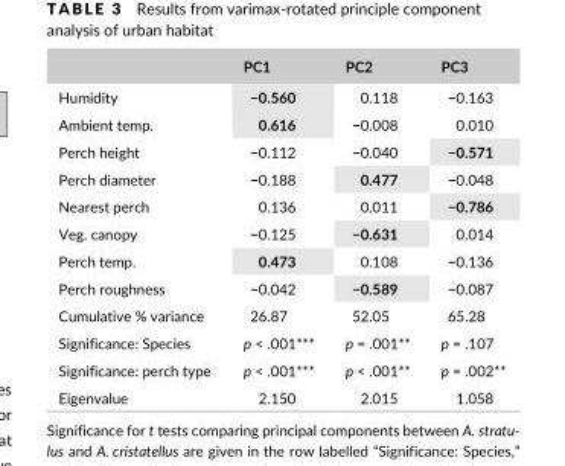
<table><thead><tr><td></td><td>PC1</td><td>PC2</td><td>PC3</td></tr></thead><tbody><tr><td>Humidity</td><td>−0.560</td><td>0.118</td><td>−0.163</td></tr><tr><td>Ambient temp.</td><td>0.616</td><td>−0.008</td><td>0.010</td></tr><tr><td>Perch height</td><td>−0.112</td><td>−0.040</td><td>−0.571</td></tr><tr><td>Perch diameter</td><td>−0.188</td><td>0.477</td><td>−0.048</td></tr><tr><td>Nearest perch</td><td>0.136</td><td>0.011</td><td>−0.786</td></tr><tr><td>Veg. canopy</td><td>−0.125</td><td>−0.631</td><td>0.014</td></tr><tr><td>Perch temp.</td><td>0.473</td><td>0.108</td><td>−0.136</td></tr><tr><td>Perch roughness</td><td>−0.042</td><td>−0.589</td><td>−0.087</td></tr><tr><td>Cumulative % variance</td><td>26.87</td><td>52.05</td><td>65.28</td></tr><tr><td>Significance: Species</td><td>p &lt; .001***</td><td>p = .001**</td><td>p = .107</td></tr><tr><td>Significance: perch type</td><td>p &lt; .001***</td><td>p &lt; .001**</td><td>p = .002**</td></tr><tr><td>Eigenvalue</td><td>2.150</td><td>2.015</td><td>1.058</td></tr></tbody></table>